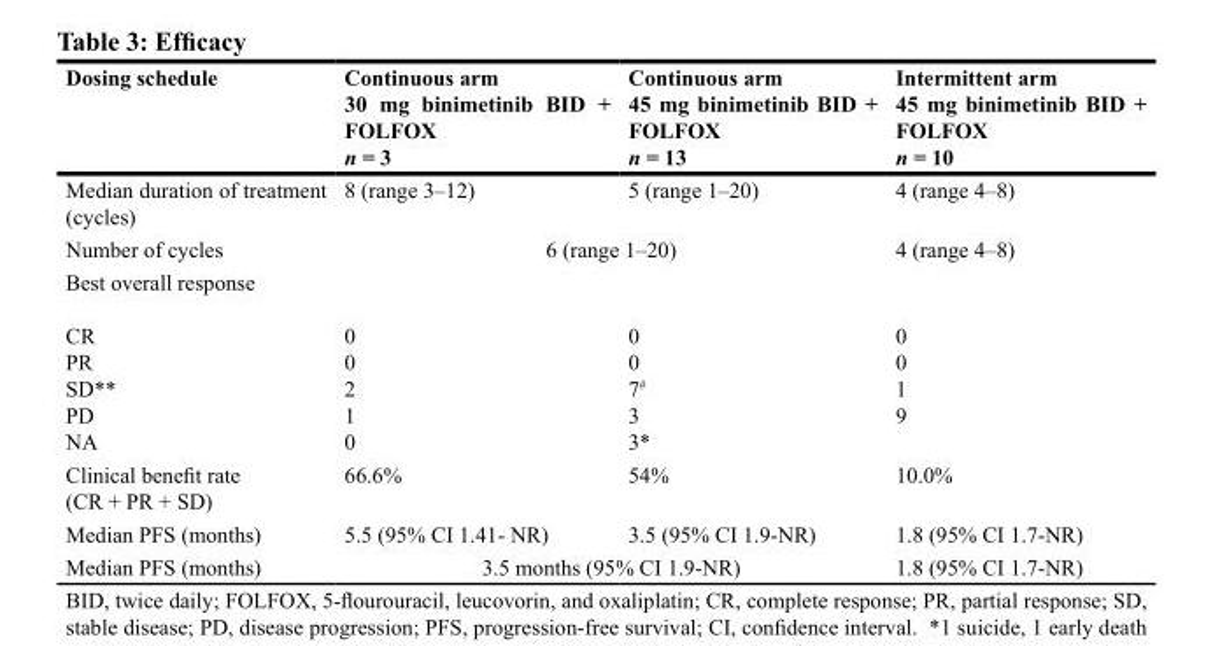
<table><thead><tr><td>Dosing schedule</td><td>Continuous arm 30 mg binimetinib BID + FOLFOX n = 3</td><td>Continuous arm 45 mg binimetinib BID + FOLFOX n = 13</td><td>Intermittent arm 45 mg binimetinib BID + FOLFOX n = 10</td></tr></thead><tbody><tr><td>Median duration of treatment (cycles)</td><td>8 (range 3–12)</td><td>5 (range 1–20)</td><td>4 (range 4–8)</td></tr><tr><td>Number of cycles</td><td colspan="2">6 (range 1–20)</td><td>4 (range 4–8)</td></tr><tr><td>Best overall response CR PR SD** PD NA</td><td>0 0 2 1 0</td><td>0 0 7<sup>#</sup> 3 3*</td><td>0 0 1 9</td></tr><tr><td>Clinical benefit rate (CR + PR + SD)</td><td>66.6%</td><td>54%</td><td>10.0%</td></tr><tr><td>Median PFS (months)</td><td>5.5 (95% CI 1.41- NR)</td><td>3.5 (95% CI 1.9-NR)</td><td>1.8 (95% CI 1.7-NR)</td></tr><tr><td>Median PFS (months)</td><td colspan="2">3.5 months (95% CI 1.9-NR)</td><td>1.8 (95% CI 1.7-NR)</td></tr></tbody></table>